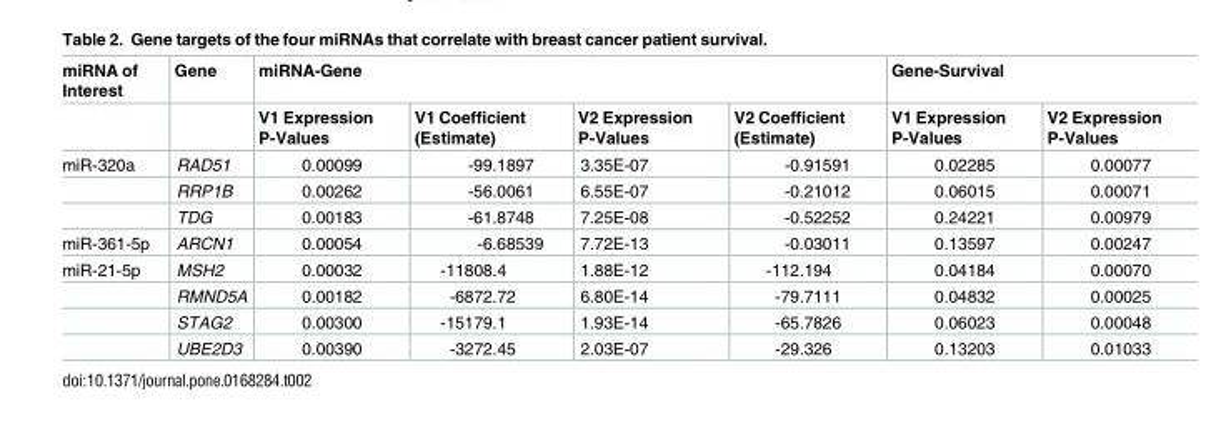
<table><thead><tr><td rowspan="2">miRNA of Interest</td><td rowspan="2">Gene</td><td colspan="4">miRNA-Gene</td><td colspan="2">Gene-Survival</td></tr><tr><td>V1 Expression P-Values</td><td>V1 Coefficient (Estimate)</td><td>V2 Expression P-Values</td><td>V2 Coefficient (Estimate)</td><td>V1 Expression P-Values</td><td>V2 Expression P-Values</td></tr></thead><tbody><tr><td rowspan="3">miR-320a</td><td>RAD51</td><td>0.00099</td><td>-99.1897</td><td>3.35E-07</td><td>-0.91591</td><td>0.02285</td><td>0.00077</td></tr><tr><td>RRP1B</td><td>0.00262</td><td>-56.0061</td><td>6.55E-07</td><td>-0.21012</td><td>0.06015</td><td>0.00071</td></tr><tr><td>TDG</td><td>0.00183</td><td>-61.8748</td><td>7.25E-08</td><td>-0.52252</td><td>0.24221</td><td>0.00979</td></tr><tr><td>miR-361-5p</td><td>ARCN1</td><td>0.00054</td><td>-6.68539</td><td>7.72E-13</td><td>-0.03011</td><td>0.13597</td><td>0.00247</td></tr><tr><td rowspan="4">miR-21-5p</td><td>MSH2</td><td>0.00032</td><td>-11808.4</td><td>1.88E-12</td><td>-112.194</td><td>0.04184</td><td>0.00070</td></tr><tr><td>RMND5A</td><td>0.00182</td><td>-6872.72</td><td>6.80E-14</td><td>-79.7111</td><td>0.04832</td><td>0.00025</td></tr><tr><td>STAG2</td><td>0.00300</td><td>-15179.1</td><td>1.93E-14</td><td>-65.7826</td><td>0.06023</td><td>0.00048</td></tr><tr><td>UBE2D3</td><td>0.00390</td><td>-3272.45</td><td>2.03E-07</td><td>-29.326</td><td>0.13203</td><td>0.01033</td></tr></tbody></table>